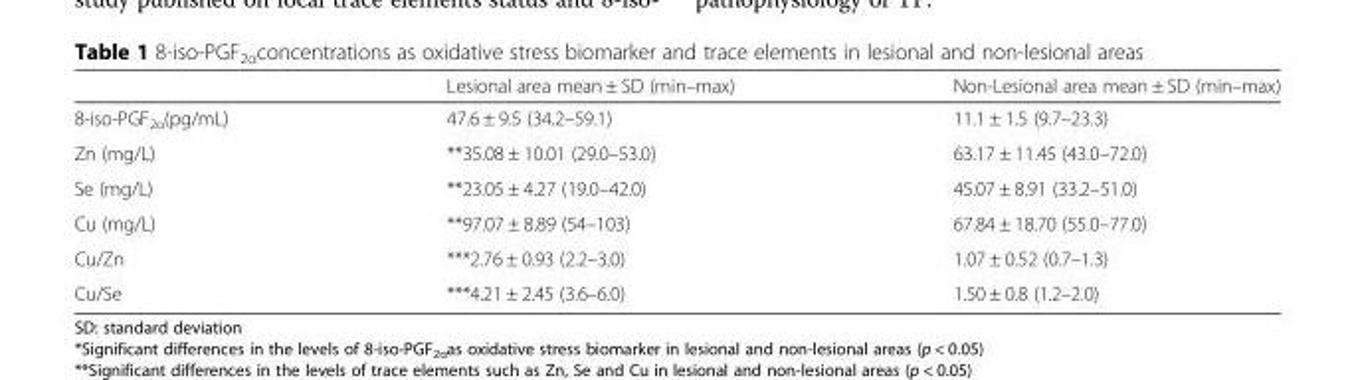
<table><thead><tr><td></td><td>Lesional area mean ± SD (min–max)</td><td>Non-Lesional area mean ± SD (min–max)</td></tr></thead><tbody><tr><td>8-iso-PGF<sub>2α</sub>(pg/mL)</td><td>47.6 ± 9.5 (34.2–59.1)</td><td>11.1 ± 1.5 (9.7–23.3)</td></tr><tr><td>Zn (mg/L)</td><td>**35.08 ± 10.01 (29.0–53.0)</td><td>63.17 ± 11.45 (43.0–72.0)</td></tr><tr><td>Se (mg/L)</td><td>**23.05 ± 4.27 (19.0–42.0)</td><td>45.07 ± 8.91 (33.2–51.0)</td></tr><tr><td>Cu (mg/L)</td><td>**97.07 ± 8.89 (54–103)</td><td>67.84 ± 18.70 (55.0–77.0)</td></tr><tr><td>Cu/Zn</td><td>***2.76 ± 0.93 (2.2–3.0)</td><td>1.07 ± 0.52 (0.7–1.3)</td></tr><tr><td>Cu/Se</td><td>***4.21 ± 2.45 (3.6–6.0)</td><td>1.50 ± 0.8 (1.2–2.0)</td></tr></tbody></table>